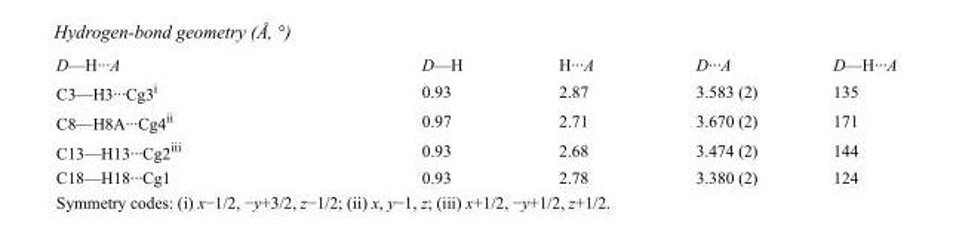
<table><tbody><tr><td>D—H···A</td><td>D—H</td><td>H···A</td><td>D···A</td><td>D—H···A</td></tr><tr><td>C3—H3···Cg3<sup>i</sup></td><td>0.93</td><td>2.87</td><td>3.583 (2)</td><td>135</td></tr><tr><td>C8—H8A···Cg4<sup>ii</sup></td><td>0.97</td><td>2.71</td><td>3.670 (2)</td><td>171</td></tr><tr><td>C13—H13···Cg2<sup>iii</sup></td><td>0.93</td><td>2.68</td><td>3.474 (2)</td><td>144</td></tr><tr><td>C18—H18···Cg1</td><td>0.93</td><td>2.78</td><td>3.380 (2)</td><td>124</td></tr></tbody></table>